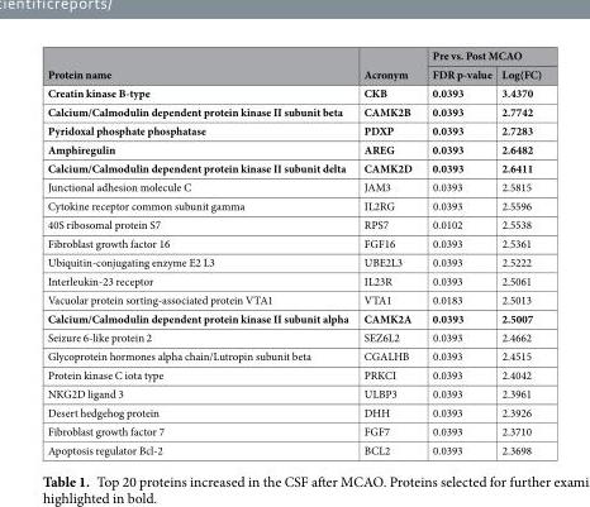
<table><thead><tr><td rowspan="2">Protein name</td><td rowspan="2">Acronym</td><td colspan="2">Pre vs. Post MCAO</td></tr><tr><td>FDR p-value</td><td>Log(FC)</td></tr></thead><tbody><tr><td>Creatin kinase B-type</td><td>CKB</td><td>0.0393</td><td>3.4370</td></tr><tr><td>Calcium/Calmodulin dependent protein kinase II subunit beta</td><td>CAMK2B</td><td>0.0393</td><td>2.7742</td></tr><tr><td>Pyridoxal phosphate phosphatase</td><td>PDXP</td><td>0.0393</td><td>2.7283</td></tr><tr><td>Amphiregulin</td><td>AREG</td><td>0.0393</td><td>2.6482</td></tr><tr><td>Calcium/Calmodulin dependent protein kinase II subunit delta</td><td>CAMK2D</td><td>0.0393</td><td>2.6411</td></tr><tr><td>Junctional adhesion molecule C</td><td>JAM3</td><td>0.0393</td><td>2.5815</td></tr><tr><td>Cytokine receptor common subunit gamma</td><td>IL2RG</td><td>0.0393</td><td>2.5596</td></tr><tr><td>40S ribosomal protein S7</td><td>RPS7</td><td>0.0102</td><td>2.5538</td></tr><tr><td>Fibroblast growth factor 16</td><td>FGF16</td><td>0.0393</td><td>2.5361</td></tr><tr><td>Ubiquitin-conjugating enzyme E2 L3</td><td>UBE2L3</td><td>0.0393</td><td>2.5222</td></tr><tr><td>Interleukin-23 receptor</td><td>IL23R</td><td>0.0393</td><td>2.5061</td></tr><tr><td>Vacuolar protein sorting-associated protein VTA1</td><td>VTA1</td><td>0.0183</td><td>2.5013</td></tr><tr><td>Calcium/Calmodulin dependent protein kinase II subunit alpha</td><td>CAMK2A</td><td>0.0393</td><td>2.5007</td></tr><tr><td>Seizure 6-like protein 2</td><td>SEZ6L2</td><td>0.0393</td><td>2.4662</td></tr><tr><td>Glycoprotein hormones alpha chain/Lutropin subunit beta</td><td>CGALHB</td><td>0.0393</td><td>2.4515</td></tr><tr><td>Protein kinase C iota type</td><td>PRKCI</td><td>0.0393</td><td>2.4042</td></tr><tr><td>NKG2D ligand 3</td><td>ULBP3</td><td>0.0393</td><td>2.3961</td></tr><tr><td>Desert hedgehog protein</td><td>DHH</td><td>0.0393</td><td>2.3926</td></tr><tr><td>Fibroblast growth factor 7</td><td>FGF7</td><td>0.0393</td><td>2.3710</td></tr><tr><td>Apoptosis regulator Bcl-2</td><td>BCL2</td><td>0.0393</td><td>2.3698</td></tr></tbody></table>